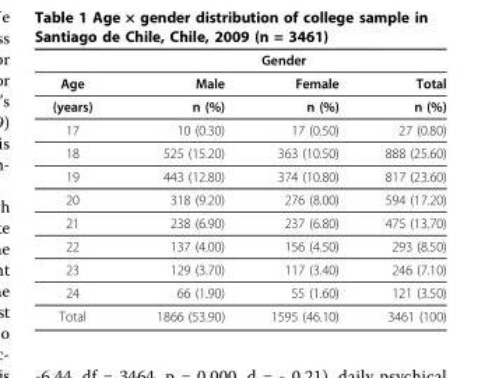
<table><thead><tr><td rowspan="2">Age</td><td colspan="3">Gender</td></tr><tr><td>Male</td><td>Female</td><td>Total</td></tr></thead><tbody><tr><td>(years)</td><td>n (%)</td><td>n (%)</td><td>n (%)</td></tr><tr><td>17</td><td>10 (0.30)</td><td>17 (0.50)</td><td>27 (0.80)</td></tr><tr><td>18</td><td>525 (15.20)</td><td>363 (10.50)</td><td>888 (25.60)</td></tr><tr><td>19</td><td>443 (12.80)</td><td>374 (10.80)</td><td>817 (23.60)</td></tr><tr><td>20</td><td>318 (9.20)</td><td>276 (8.00)</td><td>594 (17.20)</td></tr><tr><td>21</td><td>238 (6.90)</td><td>237 (6.80)</td><td>475 (13.70)</td></tr><tr><td>22</td><td>137 (4.00)</td><td>156 (4.50)</td><td>293 (8.50)</td></tr><tr><td>23</td><td>129 (3.70)</td><td>117 (3.40)</td><td>246 (7.10)</td></tr><tr><td>24</td><td>66 (1.90)</td><td>55 (1.60)</td><td>121 (3.50)</td></tr><tr><td>Total</td><td>1866 (53.90)</td><td>1595 (46.10)</td><td>3461 (100)</td></tr></tbody></table>